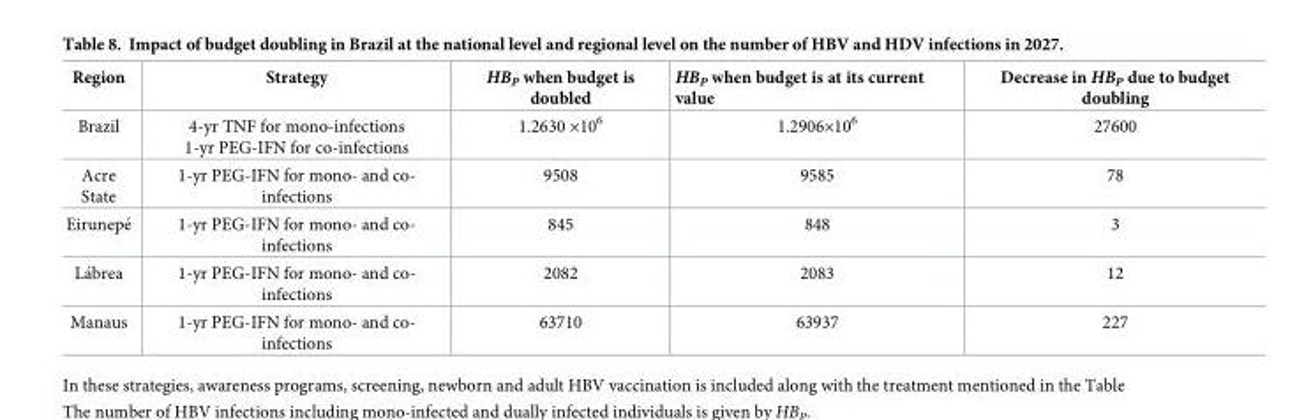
<table><thead><tr><td>Region</td><td>Strategy</td><td>HB<sub>P</sub> when budget is doubled</td><td>HB<sub>P</sub> when budget is at its current value</td><td>Decrease in HB<sub>P</sub> due to budget doubling</td></tr></thead><tbody><tr><td>Brazil</td><td>4-yr TNF for mono-infections 1-yr PEG-IFN for co-infections</td><td>1.2630 ×10<sup>6</sup></td><td>1.2906×10<sup>6</sup></td><td>27600</td></tr><tr><td>Acre State</td><td>1-yr PEG-IFN for mono- and co- infections</td><td>9508</td><td>9585</td><td>78</td></tr><tr><td>Eirunepe´</td><td>1-yr PEG-IFN for mono- and co- infections</td><td>845</td><td>848</td><td>3</td></tr><tr><td>La´brea</td><td>1-yr PEG-IFN for mono- and co- infections</td><td>2082</td><td>2083</td><td>12</td></tr><tr><td>Manaus</td><td>1-yr PEG-IFN for mono- and co- infections</td><td>63710</td><td>63937</td><td>227</td></tr></tbody></table>